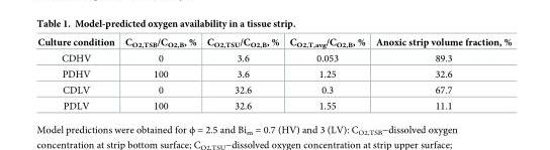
<table><thead><tr><td>Culture condition</td><td>C<sub>O2,TSB</sub>/C<sub>O2,B</sub>, %</td><td>C<sub>O2,TSU</sub>/C<sub>O2,B</sub>, %</td><td>C<sub>O2,T,avg</sub>/C<sub>O2,B</sub>, %</td><td>Anoxic strip volume fraction, %</td></tr></thead><tbody><tr><td>CDHV</td><td>0</td><td>3.6</td><td>0.053</td><td>89.3</td></tr><tr><td>PDHV</td><td>100</td><td>3.6</td><td>1.25</td><td>32.6</td></tr><tr><td>CDLV</td><td>0</td><td>32.6</td><td>0.3</td><td>67.7</td></tr><tr><td>PDLV</td><td>100</td><td>32.6</td><td>1.55</td><td>11.1</td></tr></tbody></table>